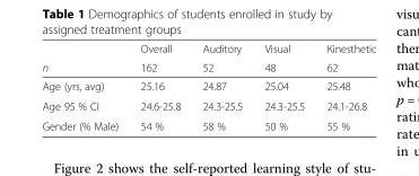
<table><thead><tr><td rowspan="2">n</td><td rowspan="2">Overall 162</td><td rowspan="2">Auditory 52</td><td rowspan="2">Visual 48</td><td rowspan="2">Kinesthetic 62</td></tr><tr></tr></thead><tbody><tr><td>Age (yrs, avg)</td><td>25.16</td><td>24.87</td><td>25.04</td><td>25.48</td></tr><tr><td>Age 95 % CI</td><td>24.6-25.8</td><td>24.3-25.5</td><td>24.3-25.5</td><td>24.1-26.8</td></tr><tr><td>Gender (% Male)</td><td>54 %</td><td>58 %</td><td>50 %</td><td>55 %</td></tr></tbody></table>